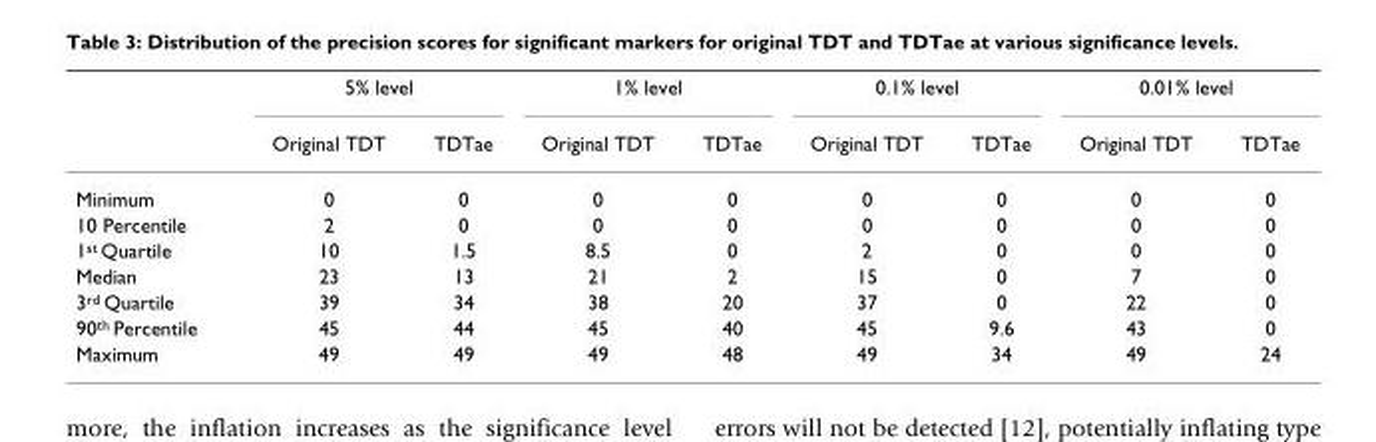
<table><thead><tr><td rowspan="2"></td><td colspan="2">5% level</td><td colspan="2">1% level</td><td colspan="2">0.1% level</td><td colspan="2">0.01% level</td></tr><tr><td>Original TDT</td><td>TDTae</td><td>Original TDT</td><td>TDTae</td><td>Original TDT</td><td>TDTae</td><td>Original TDT</td><td>TDTae</td></tr></thead><tbody><tr><td>Minimum</td><td>0</td><td>0</td><td>0</td><td>0</td><td>0</td><td>0</td><td>0</td><td>0</td></tr><tr><td>10 Percentile</td><td>2</td><td>0</td><td>0</td><td>0</td><td>0</td><td>0</td><td>0</td><td>0</td></tr><tr><td>1st Quartile</td><td>10</td><td>1.5</td><td>8.5</td><td>0</td><td>2</td><td>0</td><td>0</td><td>0</td></tr><tr><td>Median</td><td>23</td><td>13</td><td>21</td><td>2</td><td>15</td><td>0</td><td>7</td><td>0</td></tr><tr><td>3rd Quartile</td><td>39</td><td>34</td><td>38</td><td>20</td><td>37</td><td>0</td><td>22</td><td>0</td></tr><tr><td>90th Percentile</td><td>45</td><td>44</td><td>45</td><td>40</td><td>45</td><td>9.6</td><td>43</td><td>0</td></tr><tr><td>Maximum</td><td>49</td><td>49</td><td>49</td><td>48</td><td>49</td><td>34</td><td>49</td><td>24</td></tr></tbody></table>